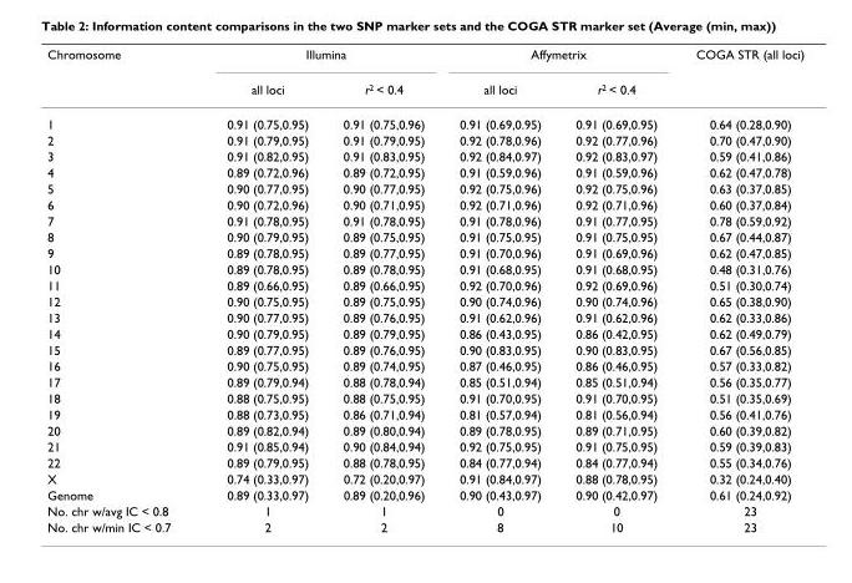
<table><thead><tr><td rowspan="2">Chromosome</td><td colspan="2">Illumina</td><td colspan="2">Affymetrix</td><td rowspan="2">COGA STR (all loci)</td></tr><tr><td>all loci</td><td>r2 &lt; 0.4</td><td>all loci</td><td>r2 &lt; 0.4</td></tr></thead><tbody><tr><td>1</td><td>0.91 (0.75,0.95)</td><td>0.91 (0.75,0.96)</td><td>0.91 (0.69,0.95)</td><td>0.91 (0.69,0.95)</td><td>0.64 (0.28,0.90)</td></tr><tr><td>2</td><td>0.91 (0.79,0.95)</td><td>0.91 (0.79,0.95)</td><td>0.92 (0.78,0.96)</td><td>0.92 (0.77,0.96)</td><td>0.70 (0.47,0.90)</td></tr><tr><td>3</td><td>0.91 (0.82,0.95)</td><td>0.91 (0.83,0.95)</td><td>0.92 (0.84,0.97)</td><td>0.92 (0.83,0.97)</td><td>0.59 (0.41,0.86)</td></tr><tr><td>4</td><td>0.89 (0.72,0.96)</td><td>0.89 (0.72,0.95)</td><td>0.91 (0.59,0.96)</td><td>0.91 (0.59,0.96)</td><td>0.62 (0.47,0.78)</td></tr><tr><td>5</td><td>0.90 (0.77,0.95)</td><td>0.90 (0.77,0.95)</td><td>0.92 (0.75,0.96)</td><td>0.92 (0.75,0.96)</td><td>0.63 (0.37,0.85)</td></tr><tr><td>6</td><td>0.90 (0.72,0.96)</td><td>0.90 (0.71,0.95)</td><td>0.92 (0.71,0.96)</td><td>0.92 (0.71,0.96)</td><td>0.60 (0.37,0.84)</td></tr><tr><td>7</td><td>0.91 (0.78,0.95)</td><td>0.91 (0.78,0.95)</td><td>0.91 (0.78,0.96)</td><td>0.91 (0.77,0.95)</td><td>0.78 (0.59,0.92)</td></tr><tr><td>8</td><td>0.90 (0.79,0.95)</td><td>0.89 (0.75,0.95)</td><td>0.91 (0.75,0.95)</td><td>0.91 (0.75,0.95)</td><td>0.67 (0.44,0.87)</td></tr><tr><td>9</td><td>0.89 (0.78,0.95)</td><td>0.89 (0.77,0.95)</td><td>0.91 (0.70,0.96)</td><td>0.91 (0.69,0.96)</td><td>0.62 (0.47,0.85)</td></tr><tr><td>10</td><td>0.89 (0.78,0.95)</td><td>0.89 (0.78,0.95)</td><td>0.91 (0.68,0.95)</td><td>0.91 (0.68,0.95)</td><td>0.48 (0.31,0.76)</td></tr><tr><td>11</td><td>0.89 (0.66,0.95)</td><td>0.89 (0.66,0.95)</td><td>0.92 (0.70,0.96)</td><td>0.92 (0.69,0.96)</td><td>0.51 (0.30,0.74)</td></tr><tr><td>12</td><td>0.90 (0.75,0.95)</td><td>0.89 (0.75,0.95)</td><td>0.90 (0.74,0.96)</td><td>0.90 (0.74,0.96)</td><td>0.65 (0.38,0.90)</td></tr><tr><td>13</td><td>0.90 (0.77,0.95)</td><td>0.89 (0.76,0.95)</td><td>0.91 (0.62,0.96)</td><td>0.91 (0.62,0.96)</td><td>0.62 (0.33,0.86)</td></tr><tr><td>14</td><td>0.90 (0.79,0.95)</td><td>0.89 (0.79,0.95)</td><td>0.86 (0.43,0.95)</td><td>0.86 (0.42,0.95)</td><td>0.62 (0.49,0.79)</td></tr><tr><td>15</td><td>0.89 (0.77,0.95)</td><td>0.89 (0.76,0.95)</td><td>0.90 (0.83,0.95)</td><td>0.90 (0.83,0.95)</td><td>0.67 (0.56,0.85)</td></tr><tr><td>16</td><td>0.90 (0.75,0.95)</td><td>0.89 (0.74,0.95)</td><td>0.87 (0.46,0.95)</td><td>0.86 (0.46,0.95)</td><td>0.57 (0.33,0.82)</td></tr><tr><td>17</td><td>0.89 (0.79,0.94)</td><td>0.88 (0.78,0.94)</td><td>0.85 (0.51,0.94)</td><td>0.85 (0.51,0.94)</td><td>0.56 (0.35,0.77)</td></tr><tr><td>18</td><td>0.88 (0.75,0.95)</td><td>0.88 (0.75,0.95)</td><td>0.91 (0.70,0.95)</td><td>0.91 (0.70,0.95)</td><td>0.51 (0.35,0.69)</td></tr><tr><td>19</td><td>0.88 (0.73,0.95)</td><td>0.86 (0.71,0.94)</td><td>0.81 (0.57,0.94)</td><td>0.81 (0.56,0.94)</td><td>0.56 (0.41,0.76)</td></tr><tr><td>20</td><td>0.89 (0.82,0.94)</td><td>0.89 (0.80,0.94)</td><td>0.89 (0.78,0.95)</td><td>0.89 (0.71,0.95)</td><td>0.60 (0.39,0.82)</td></tr><tr><td>21</td><td>0.91 (0.85,0.94)</td><td>0.90 (0.84,0.94)</td><td>0.92 (0.75,0.95)</td><td>0.91 (0.75,0.95)</td><td>0.59 (0.39,0.83)</td></tr><tr><td>22</td><td>0.89 (0.79,0.95)</td><td>0.88 (0.78,0.95)</td><td>0.84 (0.77,0.94)</td><td>0.84 (0.77,0.94)</td><td>0.55 (0.34,0.76)</td></tr><tr><td>X</td><td>0.74 (0.33,0.97)</td><td>0.72 (0.20,0.97)</td><td>0.91 (0.84,0.97)</td><td>0.88 (0.78,0.95)</td><td>0.32 (0.24,0.40)</td></tr><tr><td>Genome</td><td>0.89 (0.33,0.97)</td><td>0.89 (0.20,0.96)</td><td>0.90 (0.43,0.97)</td><td>0.90 (0.42,0.97)</td><td>0.61 (0.24,0.92)</td></tr><tr><td>No. chr w/avg IC &lt; 0.8</td><td>1</td><td>1</td><td>0</td><td>0</td><td>23</td></tr><tr><td>No. chr w/min IC &lt; 0.7</td><td>2</td><td>2</td><td>8</td><td>10</td><td>23</td></tr></tbody></table>